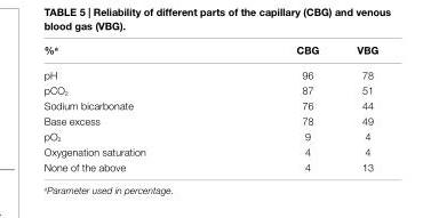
<table><thead><tr><td>%<sup>a</sup></td><td>cBg</td><td>VBg</td></tr></thead><tbody><tr><td>pH</td><td>96</td><td>78</td></tr><tr><td>pCO<sub>2</sub></td><td>87</td><td>51</td></tr><tr><td>Sodium bicarbonate</td><td>76</td><td>44</td></tr><tr><td>Base excess</td><td>78</td><td>49</td></tr><tr><td>pO<sub>2</sub></td><td>9</td><td>4</td></tr><tr><td>Oxygenation saturation</td><td>4</td><td>4</td></tr><tr><td>None of the above</td><td>4</td><td>13</td></tr></tbody></table>